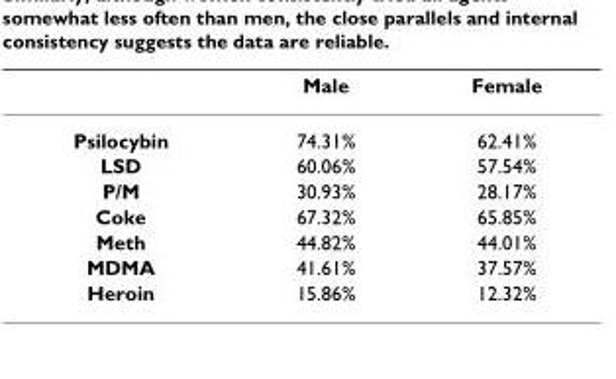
<table><thead><tr><td></td><td>Male</td><td>Female</td></tr></thead><tbody><tr><td>Psilocybin</td><td>74.31%</td><td>62.41%</td></tr><tr><td>LSD</td><td>60.06%</td><td>57.54%</td></tr><tr><td>P/M</td><td>30.93%</td><td>28.17%</td></tr><tr><td>Coke</td><td>67.32%</td><td>65.85%</td></tr><tr><td>Meth</td><td>44.82%</td><td>44.01%</td></tr><tr><td>MDMA</td><td>41.61%</td><td>37.57%</td></tr><tr><td>Heroin</td><td>15.86%</td><td>12.32%</td></tr></tbody></table>